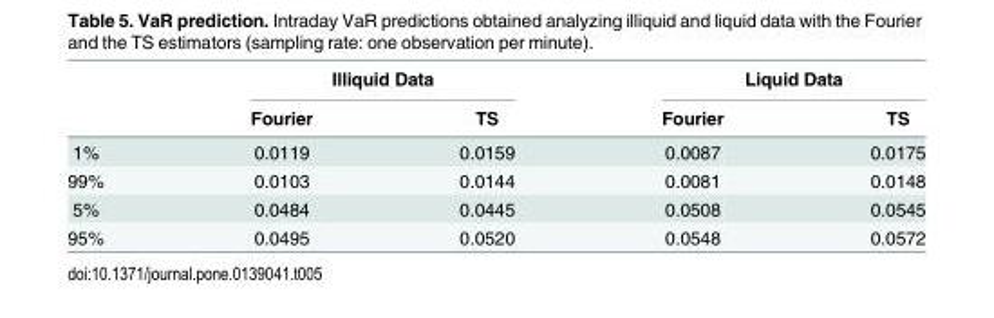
<table><thead><tr><td rowspan="2"></td><td colspan="2">Illiquid Data</td><td colspan="2">Liquid Data</td></tr><tr><td>Fourier</td><td>TS</td><td>Fourier</td><td>TS</td></tr></thead><tbody><tr><td>1%</td><td>0.0119</td><td>0.0159</td><td>0.0087</td><td>0.0175</td></tr><tr><td>99%</td><td>0.0103</td><td>0.0144</td><td>0.0081</td><td>0.0148</td></tr><tr><td>5%</td><td>0.0484</td><td>0.0445</td><td>0.0508</td><td>0.0545</td></tr><tr><td>95%</td><td>0.0495</td><td>0.0520</td><td>0.0548</td><td>0.0572</td></tr></tbody></table>